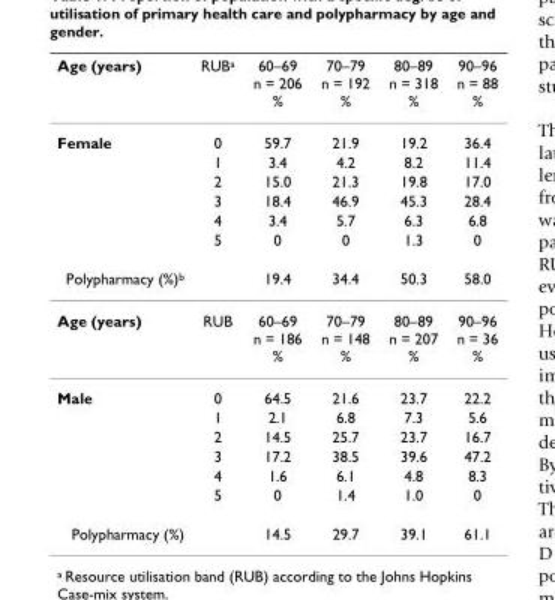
<table><thead><tr><td>Age (years)</td><td>RUBa</td><td>60–69 n = 206 %</td><td>70–79 n = 192 %</td><td>80–89 n = 318 %</td><td>90–96 n = 88 %</td></tr></thead><tbody><tr><td rowspan="6">Female</td><td>0</td><td>59.7</td><td>21.9</td><td>19.2</td><td>36.4</td></tr><tr><td>1</td><td>3.4</td><td>4.2</td><td>8.2</td><td>11.4</td></tr><tr><td>2</td><td>15.0</td><td>21.3</td><td>19.8</td><td>17.0</td></tr><tr><td>3</td><td>18.4</td><td>46.9</td><td>45.3</td><td>28.4</td></tr><tr><td>4</td><td>3.4</td><td>5.7</td><td>6.3</td><td>6.8</td></tr><tr><td>5</td><td>0</td><td>0</td><td>1.3</td><td>0</td></tr><tr><td>Polypharmacy (%)b</td><td></td><td>19.4</td><td>34.4</td><td>50.3</td><td>58.0</td></tr><tr><td>Age (years)</td><td>RUB</td><td>60–69 n = 186 %</td><td>70–79 n = 148 %</td><td>80–89 n = 207 %</td><td>90–96 n = 36 %</td></tr><tr><td rowspan="6">Male</td><td>0</td><td>64.5</td><td>21.6</td><td>23.7</td><td>22.2</td></tr><tr><td>1</td><td>2.1</td><td>6.8</td><td>7.3</td><td>5.6</td></tr><tr><td>2</td><td>14.5</td><td>25.7</td><td>23.7</td><td>16.7</td></tr><tr><td>3</td><td>17.2</td><td>38.5</td><td>39.6</td><td>47.2</td></tr><tr><td>4</td><td>1.6</td><td>6.1</td><td>4.8</td><td>8.3</td></tr><tr><td>5</td><td>0</td><td>1.4</td><td>1.0</td><td>0</td></tr><tr><td>Polypharmacy (%)</td><td></td><td>14.5</td><td>29.7</td><td>39.1</td><td>61.1</td></tr></tbody></table>